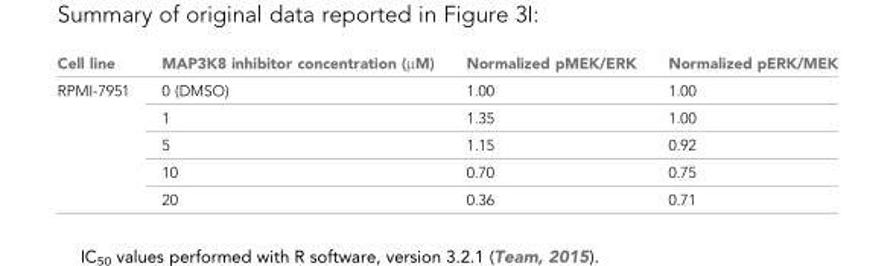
<table><thead><tr><td>Cell line</td><td>MAP3K8 inhibitor concentration (µM)</td><td>Normalized pMEK/ERK</td><td>Normalized pERK/MEK</td></tr></thead><tbody><tr><td rowspan="5">RPMI-7951</td><td>0 (DMSO)</td><td>1.00</td><td>1.00</td></tr><tr><td>1</td><td>1.35</td><td>1.00</td></tr><tr><td>5</td><td>1.15</td><td>0.92</td></tr><tr><td>10</td><td>0.70</td><td>0.75</td></tr><tr><td>20</td><td>0.36</td><td>0.71</td></tr></tbody></table>